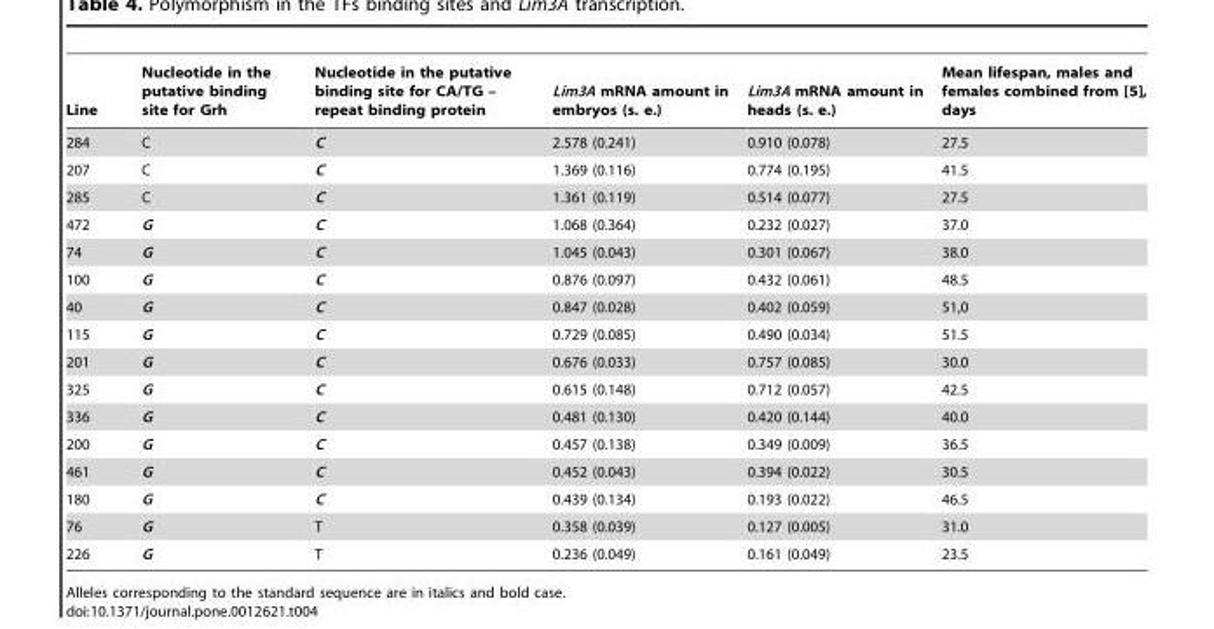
<table><thead><tr><td>Line</td><td>Nucleotide in the putative binding site for Grh</td><td>Nucleotide in the putative binding site for CA/TG – repeat binding protein</td><td>Lim3A mRNA amount in embryos (s. e.)</td><td>Lim3A mRNA amount in heads (s. e.)</td><td>Mean lifespan, males and females combined from [5], days</td></tr></thead><tbody><tr><td>284</td><td>C</td><td>C</td><td>2.578 (0.241)</td><td>0.910 (0.078)</td><td>27.5</td></tr><tr><td>207</td><td>C</td><td>C</td><td>1.369 (0.116)</td><td>0.774 (0.195)</td><td>41.5</td></tr><tr><td>285</td><td>C</td><td>C</td><td>1.361 (0.119)</td><td>0.514 (0.077)</td><td>27.5</td></tr><tr><td>472</td><td>G</td><td>C</td><td>1.068 (0.364)</td><td>0.232 (0.027)</td><td>37.0</td></tr><tr><td>74</td><td>G</td><td>C</td><td>1.045 (0.043)</td><td>0.301 (0.067)</td><td>38.0</td></tr><tr><td>100</td><td>G</td><td>C</td><td>0.876 (0.097)</td><td>0.432 (0.061)</td><td>48.5</td></tr><tr><td>40</td><td>G</td><td>C</td><td>0.847 (0.028)</td><td>0.402 (0.059)</td><td>51,0</td></tr><tr><td>115</td><td>G</td><td>C</td><td>0.729 (0.085)</td><td>0.490 (0.034)</td><td>51.5</td></tr><tr><td>201</td><td>G</td><td>C</td><td>0.676 (0.033)</td><td>0.757 (0.085)</td><td>30.0</td></tr><tr><td>325</td><td>G</td><td>C</td><td>0.615 (0.148)</td><td>0.712 (0.057)</td><td>42.5</td></tr><tr><td>336</td><td>G</td><td>C</td><td>0.481 (0.130)</td><td>0.420 (0.144)</td><td>40.0</td></tr><tr><td>200</td><td>G</td><td>C</td><td>0.457 (0.138)</td><td>0.349 (0.009)</td><td>36.5</td></tr><tr><td>461</td><td>G</td><td>C</td><td>0.452 (0.043)</td><td>0.394 (0.022)</td><td>30.5</td></tr><tr><td>180</td><td>G</td><td>C</td><td>0.439 (0.134)</td><td>0.193 (0.022)</td><td>46.5</td></tr><tr><td>76</td><td>G</td><td>T</td><td>0.358 (0.039)</td><td>0.127 (0.005)</td><td>31.0</td></tr><tr><td>226</td><td>G</td><td>T</td><td>0.236 (0.049)</td><td>0.161 (0.049)</td><td>23.5</td></tr></tbody></table>